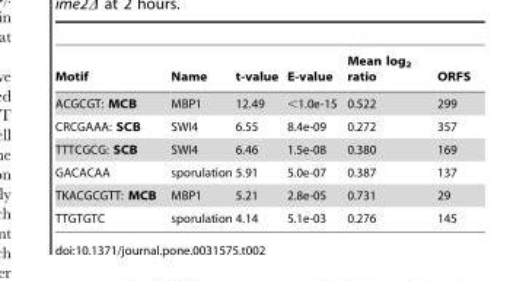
<table><thead><tr><td>Motif</td><td>Name</td><td>t-value</td><td>E-value</td><td>Mean log<sub>2</sub> ratio</td><td>ORFS</td></tr></thead><tbody><tr><td>ACGCGT: MCB</td><td>MBP1</td><td>12.49</td><td>&lt;1.0e-15</td><td>0.522</td><td>299</td></tr><tr><td>CRCGAAA: SCB</td><td>SWI4</td><td>6.55</td><td>8.4e-09</td><td>0.272</td><td>357</td></tr><tr><td>TTTCGCG: SCB</td><td>SWI4</td><td>6.46</td><td>1.5e-08</td><td>0.380</td><td>169</td></tr><tr><td>GACACAA</td><td>sporulation</td><td>5.91</td><td>5.0e-07</td><td>0.387</td><td>137</td></tr><tr><td>TKACGCGTT: MCB</td><td>MBP1</td><td>5.21</td><td>2.8e-05</td><td>0.731</td><td>29</td></tr><tr><td>TTGTGTC</td><td>sporulation</td><td>4.14</td><td>5.1e-03</td><td>0.276</td><td>145</td></tr></tbody></table>